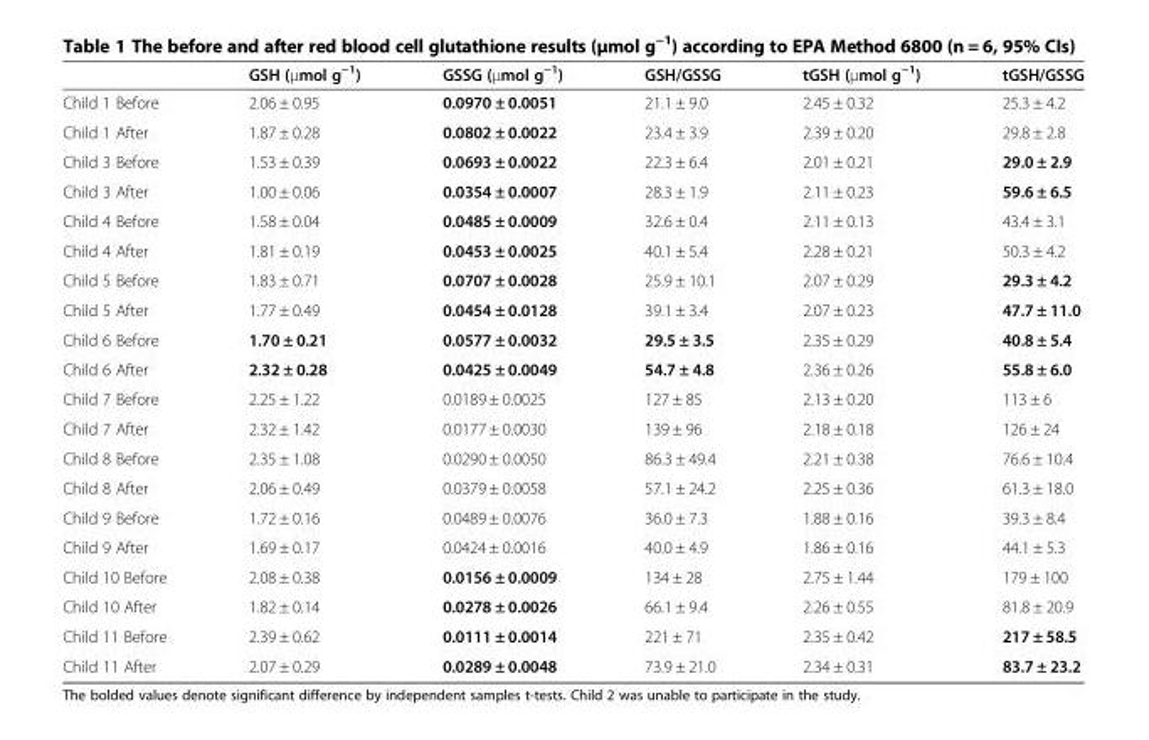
<table><thead><tr><td></td><td>GSH (μmol g<sup>−1</sup>)</td><td>GSSG (μmol g<sup>−1</sup>)</td><td>GSH/GSSG</td><td>tGSH (μmol g<sup>−1</sup>)</td><td>tGSH/GSSG</td></tr></thead><tbody><tr><td>Child 1 Before</td><td>2.06 ± 0.95</td><td>0.0970 ± 0.0051</td><td>21.1 ± 9.0</td><td>2.45 ± 0.32</td><td>25.3 ± 4.2</td></tr><tr><td>Child 1 After</td><td>1.87 ± 0.28</td><td>0.0802 ± 0.0022</td><td>23.4 ± 3.9</td><td>2.39 ± 0.20</td><td>29.8 ± 2.8</td></tr><tr><td>Child 3 Before</td><td>1.53 ± 0.39</td><td>0.0693 ± 0.0022</td><td>22.3 ± 6.4</td><td>2.01 ± 0.21</td><td>29.0 ± 2.9</td></tr><tr><td>Child 3 After</td><td>1.00 ± 0.06</td><td>0.0354 ± 0.0007</td><td>28.3 ± 1.9</td><td>2.11 ± 0.23</td><td>59.6 ± 6.5</td></tr><tr><td>Child 4 Before</td><td>1.58 ± 0.04</td><td>0.0485 ± 0.0009</td><td>32.6 ± 0.4</td><td>2.11 ± 0.13</td><td>43.4 ± 3.1</td></tr><tr><td>Child 4 After</td><td>1.81 ± 0.19</td><td>0.0453 ± 0.0025</td><td>40.1 ± 5.4</td><td>2.28 ± 0.21</td><td>50.3 ± 4.2</td></tr><tr><td>Child 5 Before</td><td>1.83 ± 0.71</td><td>0.0707 ± 0.0028</td><td>25.9 ± 10.1</td><td>2.07 ± 0.29</td><td>29.3 ± 4.2</td></tr><tr><td>Child 5 After</td><td>1.77 ± 0.49</td><td>0.0454 ± 0.0128</td><td>39.1 ± 3.4</td><td>2.07 ± 0.23</td><td>47.7 ± 11.0</td></tr><tr><td>Child 6 Before</td><td>1.70 ± 0.21</td><td>0.0577 ± 0.0032</td><td>29.5 ± 3.5</td><td>2.35 ± 0.29</td><td>40.8 ± 5.4</td></tr><tr><td>Child 6 After</td><td>2.32 ± 0.28</td><td>0.0425 ± 0.0049</td><td>54.7 ± 4.8</td><td>2.36 ± 0.26</td><td>55.8 ± 6.0</td></tr><tr><td>Child 7 Before</td><td>2.25 ± 1.22</td><td>0.0189 ± 0.0025</td><td>127 ± 85</td><td>2.13 ± 0.20</td><td>113 ± 6</td></tr><tr><td>Child 7 After</td><td>2.32 ± 1.42</td><td>0.0177 ± 0.0030</td><td>139 ± 96</td><td>2.18 ± 0.18</td><td>126 ± 24</td></tr><tr><td>Child 8 Before</td><td>2.35 ± 1.08</td><td>0.0290 ± 0.0050</td><td>86.3 ± 49.4</td><td>2.21 ± 0.38</td><td>76.6 ± 10.4</td></tr><tr><td>Child 8 After</td><td>2.06 ± 0.49</td><td>0.0379 ± 0.0058</td><td>57.1 ± 24.2</td><td>2.25 ± 0.36</td><td>61.3 ± 18.0</td></tr><tr><td>Child 9 Before</td><td>1.72 ± 0.16</td><td>0.0489 ± 0.0076</td><td>36.0 ± 7.3</td><td>1.88 ± 0.16</td><td>39.3 ± 8.4</td></tr><tr><td>Child 9 After</td><td>1.69 ± 0.17</td><td>0.0424 ± 0.0016</td><td>40.0 ± 4.9</td><td>1.86 ± 0.16</td><td>44.1 ± 5.3</td></tr><tr><td>Child 10 Before</td><td>2.08 ± 0.38</td><td>0.0156 ± 0.0009</td><td>134 ± 28</td><td>2.75 ± 1.44</td><td>179 ± 100</td></tr><tr><td>Child 10 After</td><td>1.82 ± 0.14</td><td>0.0278 ± 0.0026</td><td>66.1 ± 9.4</td><td>2.26 ± 0.55</td><td>81.8 ± 20.9</td></tr><tr><td>Child 11 Before</td><td>2.39 ± 0.62</td><td>0.0111 ± 0.0014</td><td>221 ± 71</td><td>2.35 ± 0.42</td><td>217 ± 58.5</td></tr><tr><td>Child 11 After</td><td>2.07 ± 0.29</td><td>0.0289 ± 0.0048</td><td>73.9 ± 21.0</td><td>2.34 ± 0.31</td><td>83.7 ± 23.2</td></tr></tbody></table>